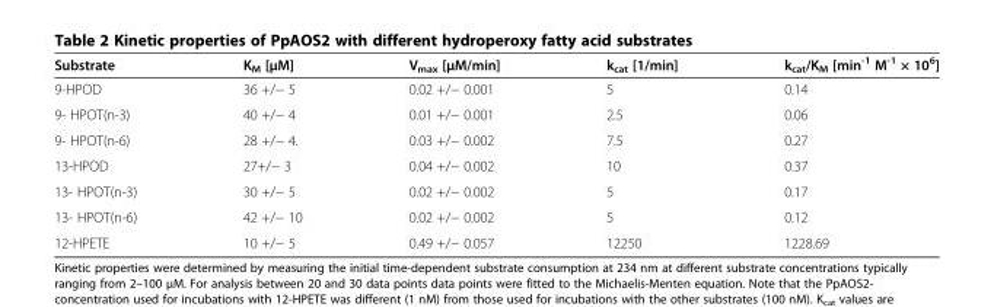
<table><thead><tr><td>Substrate</td><td>K<sub>M</sub> [μM]</td><td>V<sub>max</sub> [μM/min]</td><td>k<sub>cat</sub> [1/min]</td><td>k<sub>cat</sub>/K<sub>M</sub> [min<sup>-1</sup> M<sup>-1</sup> × 10<sup>6</sup>]</td></tr></thead><tbody><tr><td>9-HPOD</td><td>36 +/− 5</td><td>0.02 +/− 0.001</td><td>5</td><td>0.14</td></tr><tr><td>9- HPOT(n-3)</td><td>40 +/− 4</td><td>0.01 +/− 0.001</td><td>2.5</td><td>0.06</td></tr><tr><td>9- HPOT(n-6)</td><td>28 +/− 4.</td><td>0.03 +/− 0.002</td><td>7.5</td><td>0.27</td></tr><tr><td>13-HPOD</td><td>27+/− 3</td><td>0.04 +/− 0.002</td><td>10</td><td>0.37</td></tr><tr><td>13- HPOT(n-3)</td><td>30 +/− 5</td><td>0.02 +/− 0.002</td><td>5</td><td>0.17</td></tr><tr><td>13- HPOT(n-6)</td><td>42 +/− 10</td><td>0.02 +/− 0.002</td><td>5</td><td>0.12</td></tr><tr><td>12-HPETE</td><td>10 +/− 5</td><td>0.49 +/− 0.057</td><td>12250</td><td>1228.69</td></tr></tbody></table>